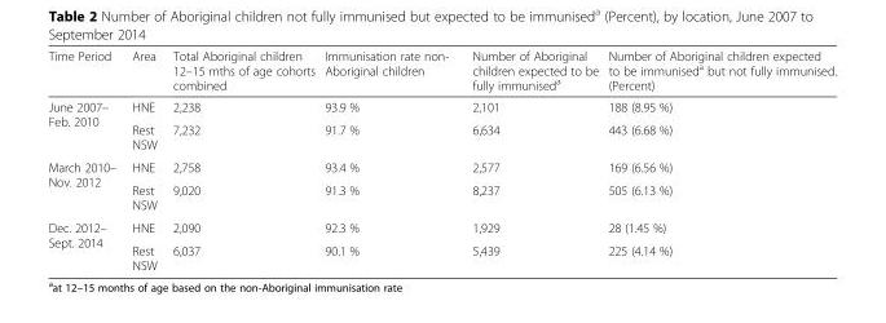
<table><thead><tr><td>Time Period</td><td>Area</td><td>Total Aboriginal children 12–15 mths of age cohorts combined</td><td>Immunisation rate non- Aboriginal children</td><td>Number of Aboriginal children expected to be fully immunised<sup>a</sup></td><td>Number of Aboriginal children expected to be immunised<sup>a</sup> but not fully immunised. (Percent)</td></tr></thead><tbody><tr><td rowspan="2">June 2007– Feb. 2010</td><td>HNE</td><td>2,238</td><td>93.9 %</td><td>2,101</td><td>188 (8.95 %)</td></tr><tr><td>Rest NSW</td><td>7,232</td><td>91.7 %</td><td>6,634</td><td>443 (6.68 %)</td></tr><tr><td rowspan="2">March 2010– Nov. 2012</td><td>HNE</td><td>2,758</td><td>93.4 %</td><td>2,577</td><td>169 (6.56 %)</td></tr><tr><td>Rest NSW</td><td>9,020</td><td>91.3 %</td><td>8,237</td><td>505 (6.13 %)</td></tr><tr><td rowspan="2">Dec. 2012– Sept. 2014</td><td>HNE</td><td>2,090</td><td>92.3 %</td><td>1,929</td><td>28 (1.45 %)</td></tr><tr><td>Rest NSW</td><td>6,037</td><td>90.1 %</td><td>5,439</td><td>225 (4.14 %)</td></tr></tbody></table>